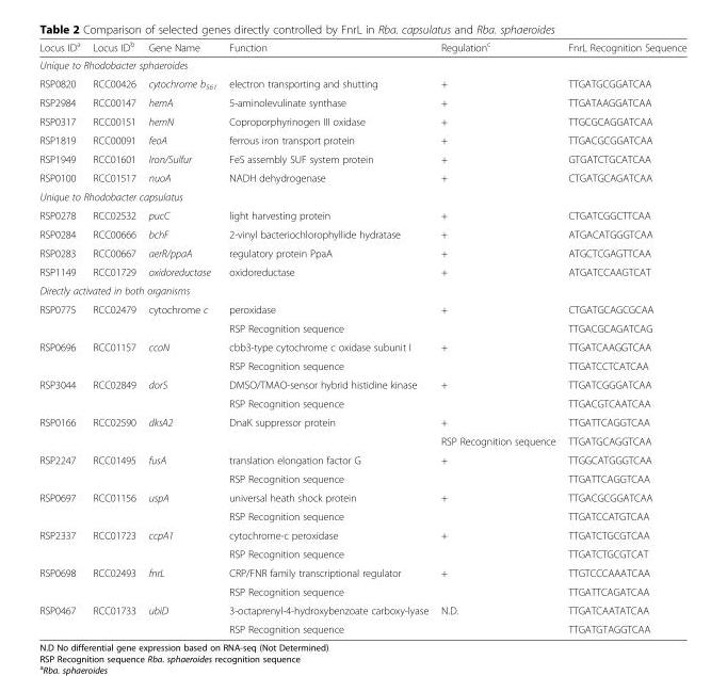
<table><thead><tr><td>Locus ID<sup>a</sup></td><td>Locus ID<sup>b</sup></td><td>Gene Name</td><td>Function</td><td>Regulation<sup>c</sup></td><td>FnrL Recognition Sequence</td></tr></thead><tbody><tr><td colspan="6">Unique to Rhodobacter sphaeroides</td></tr><tr><td>RSP0820</td><td>RCC00426</td><td>cytochrome b<sub>561</sub></td><td>electron transporting and shutting</td><td>+</td><td>TTGATGCGGATCAA</td></tr><tr><td>RSP2984</td><td>RCC00147</td><td>hemA</td><td>5-aminolevulinate synthase</td><td>+</td><td>TTGATAAGGATCAA</td></tr><tr><td>RSP0317</td><td>RCC00151</td><td>hemN</td><td>Coproporphyrinogen III oxidase</td><td>+</td><td>TTGCGCAGGATCAA</td></tr><tr><td>RSP1819</td><td>RCC00091</td><td>feoA</td><td>ferrous iron transport protein</td><td>+</td><td>TTGACGCGGATCAA</td></tr><tr><td>RSP1949</td><td>RCC01601</td><td>Iron/Sulfur</td><td>FeS assembly SUF system protein</td><td>+</td><td>GTGATCTGCATCAA</td></tr><tr><td>RSP0100</td><td>RCC01517</td><td>nuoA</td><td>NADH dehydrogenase</td><td>+</td><td>CTGATGCAGATCAA</td></tr><tr><td colspan="6">Unique to Rhodobacter capsulatus</td></tr><tr><td>RSP0278</td><td>RCC02532</td><td>pucC</td><td>light harvesting protein</td><td>+</td><td>CTGATCGGCTTCAA</td></tr><tr><td>RSP0284</td><td>RCC00666</td><td>bchF</td><td>2-vinyl bacteriochlorophyllide hydratase</td><td>+</td><td>ATGACATGGGTCAA</td></tr><tr><td>RSP0283</td><td>RCC00667</td><td>aerR/ppaA</td><td>regulatory protein PpaA</td><td>+</td><td>ATGCTCGAGTTCAA</td></tr><tr><td>RSP1149</td><td>RCC01729</td><td>oxidoreductase</td><td>oxidoreductase</td><td>+</td><td>ATGATCCAAGTCAT</td></tr><tr><td colspan="6">Directly activated in both organisms</td></tr><tr><td rowspan="2">RSP0775</td><td>RCC02479</td><td>cytochrome c</td><td>peroxidase</td><td>+</td><td>CTGATGCAGCGCAA</td></tr><tr><td></td><td></td><td colspan="2">RSP Recognition sequence</td><td>TTGACGCAGATCAG</td></tr><tr><td rowspan="2">RSP0696</td><td>RCC01157</td><td>ccoN</td><td>cbb3-type cytochrome c oxidase subunit I</td><td>+</td><td>TTGATCAAGGTCAA</td></tr><tr><td></td><td></td><td colspan="2">RSP Recognition sequence</td><td>TTGATCCTCATCAA</td></tr><tr><td rowspan="2">RSP3044</td><td>RCC02849</td><td>dorS</td><td>DMSO/TMAO-sensor hybrid histidine kinase</td><td>+</td><td>TTGATCGGGATCAA</td></tr><tr><td></td><td></td><td colspan="2">RSP Recognition sequence</td><td>TTGACGTCAATCAA</td></tr><tr><td rowspan="2">RSP0166</td><td>RCC02590</td><td>dksA2</td><td>DnaK suppressor protein</td><td>+</td><td>TTGATTCAGGTCAA</td></tr><tr><td></td><td></td><td></td><td>RSP Recognition sequence</td><td>TTGATGCAGGTCAA</td></tr><tr><td rowspan="2">RSP2247</td><td>RCC01495</td><td>fusA</td><td>translation elongation factor G</td><td>+</td><td>TTGGCATGGGTCAA</td></tr><tr><td></td><td></td><td colspan="2">RSP Recognition sequence</td><td>TTGATTCAGGTCAA</td></tr><tr><td rowspan="2">RSP0697</td><td>RCC01156</td><td>uspA</td><td>universal heath shock protein</td><td>+</td><td>TTGACGCGGATCAA</td></tr><tr><td></td><td></td><td colspan="2">RSP Recognition sequence</td><td>TTGATCCATGTCAA</td></tr><tr><td rowspan="2">RSP2337</td><td>RCC01723</td><td>ccpA1</td><td>cytochrome-c peroxidase</td><td>+</td><td>TTGATCTGCGTCAA</td></tr><tr><td></td><td></td><td colspan="2">RSP Recognition sequence</td><td>TTGATCTGCGTCAT</td></tr><tr><td rowspan="2">RSP0698</td><td>RCC02493</td><td>fnrL</td><td>CRP/FNR family transcriptional regulator</td><td>+</td><td>TTGTCCCAAATCAA</td></tr><tr><td></td><td></td><td colspan="2">RSP Recognition sequence</td><td>TTGATTCAGATCAA</td></tr><tr><td rowspan="2">RSP0467</td><td>RCC01733</td><td>ubiD</td><td>3-octaprenyl-4-hydroxybenzoate carboxy-lyase</td><td>N.D.</td><td>TTGATCAATATCAA</td></tr><tr><td></td><td></td><td colspan="2">RSP Recognition sequence</td><td>TTGATGTAGGTCAA</td></tr></tbody></table>